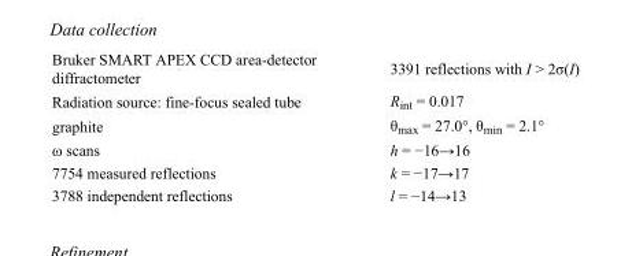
<table><tbody><tr><td>Bruker SMART APEX CCD area-detector diffractometer</td><td>3391 reflections with I &gt; 2σ(I)</td></tr><tr><td>Radiation source: fine-focus sealed tube</td><td>R<sub>int</sub> = 0.017</td></tr><tr><td>graphite</td><td>θ<sub>max</sub> = 27.0°, θ<sub>min</sub> = 2.1°</td></tr><tr><td>ω scans</td><td>h = −16→16</td></tr><tr><td>7754 measured reflections</td><td>k = −17→17</td></tr><tr><td>3788 independent reflections</td><td>l = −14→13</td></tr></tbody></table>